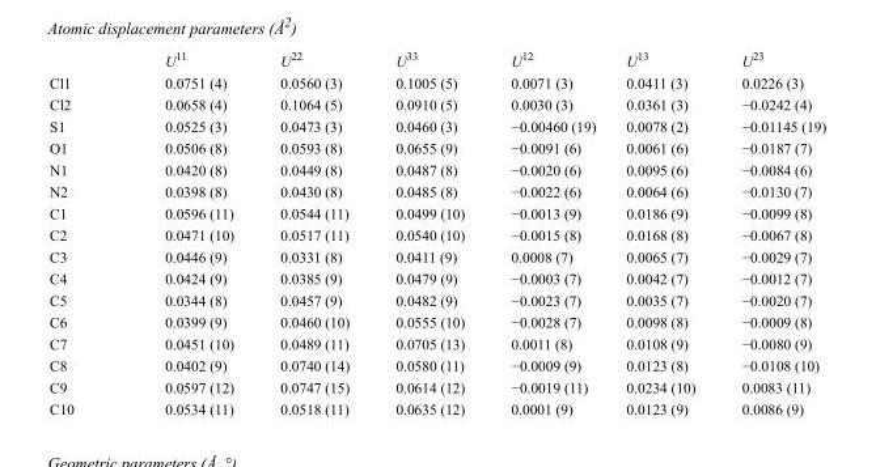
<table><thead><tr><td></td><td>U<sup>11</sup></td><td>U<sup>22</sup></td><td>U<sup>33</sup></td><td>U<sup>12</sup></td><td>U<sup>13</sup></td><td>U<sup>23</sup></td></tr></thead><tbody><tr><td>Cl1</td><td>0.0751 (4)</td><td>0.0560 (3)</td><td>0.1005 (5)</td><td>0.0071 (3)</td><td>0.0411 (3)</td><td>0.0226 (3)</td></tr><tr><td>Cl2</td><td>0.0658 (4)</td><td>0.1064 (5)</td><td>0.0910 (5)</td><td>0.0030 (3)</td><td>0.0361 (3)</td><td>−0.0242 (4)</td></tr><tr><td>S1</td><td>0.0525 (3)</td><td>0.0473 (3)</td><td>0.0460 (3)</td><td>−0.00460 (19)</td><td>0.0078 (2)</td><td>−0.01145 (19)</td></tr><tr><td>O1</td><td>0.0506 (8)</td><td>0.0593 (8)</td><td>0.0655 (9)</td><td>−0.0091 (6)</td><td>0.0061 (6)</td><td>−0.0187 (7)</td></tr><tr><td>N1</td><td>0.0420 (8)</td><td>0.0449 (8)</td><td>0.0487 (8)</td><td>−0.0020 (6)</td><td>0.0095 (6)</td><td>−0.0084 (6)</td></tr><tr><td>N2</td><td>0.0398 (8)</td><td>0.0430 (8)</td><td>0.0485 (8)</td><td>−0.0022 (6)</td><td>0.0064 (6)</td><td>−0.0130 (7)</td></tr><tr><td>C1</td><td>0.0596 (11)</td><td>0.0544 (11)</td><td>0.0499 (10)</td><td>−0.0013 (9)</td><td>0.0186 (9)</td><td>−0.0099 (8)</td></tr><tr><td>C2</td><td>0.0471 (10)</td><td>0.0517 (11)</td><td>0.0540 (10)</td><td>−0.0015 (8)</td><td>0.0168 (8)</td><td>−0.0067 (8)</td></tr><tr><td>C3</td><td>0.0446 (9)</td><td>0.0331 (8)</td><td>0.0411 (9)</td><td>0.0008 (7)</td><td>0.0065 (7)</td><td>−0.0029 (7)</td></tr><tr><td>C4</td><td>0.0424 (9)</td><td>0.0385 (9)</td><td>0.0479 (9)</td><td>−0.0003 (7)</td><td>0.0042 (7)</td><td>−0.0012 (7)</td></tr><tr><td>C5</td><td>0.0344 (8)</td><td>0.0457 (9)</td><td>0.0482 (9)</td><td>−0.0023 (7)</td><td>0.0035 (7)</td><td>−0.0020 (7)</td></tr><tr><td>C6</td><td>0.0399 (9)</td><td>0.0460 (10)</td><td>0.0555 (10)</td><td>−0.0028 (7)</td><td>0.0098 (8)</td><td>−0.0009 (8)</td></tr><tr><td>C7</td><td>0.0451 (10)</td><td>0.0489 (11)</td><td>0.0705 (13)</td><td>0.0011 (8)</td><td>0.0108 (9)</td><td>−0.0080 (9)</td></tr><tr><td>C8</td><td>0.0402 (9)</td><td>0.0740 (14)</td><td>0.0580 (11)</td><td>−0.0009 (9)</td><td>0.0123 (8)</td><td>−0.0108 (10)</td></tr><tr><td>C9</td><td>0.0597 (12)</td><td>0.0747 (15)</td><td>0.0614 (12)</td><td>−0.0019 (11)</td><td>0.0234 (10)</td><td>0.0083 (11)</td></tr><tr><td>C10</td><td>0.0534 (11)</td><td>0.0518 (11)</td><td>0.0635 (12)</td><td>0.0001 (9)</td><td>0.0123 (9)</td><td>0.0086 (9)</td></tr></tbody></table>